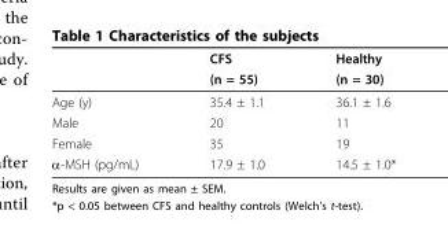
<table><thead><tr><td rowspan="2"></td><td rowspan="2">CFS (n = 55)</td><td rowspan="2">Healthy (n = 30)</td></tr><tr></tr></thead><tbody><tr><td>Age (y)</td><td>35.4 ± 1.1</td><td>36.1 ± 1.6</td></tr><tr><td>Male</td><td>20</td><td>11</td></tr><tr><td>Female</td><td>35</td><td>19</td></tr><tr><td>α-MSH (pg/mL)</td><td>17.9 ± 1.0</td><td>14.5 ± 1.0*</td></tr></tbody></table>